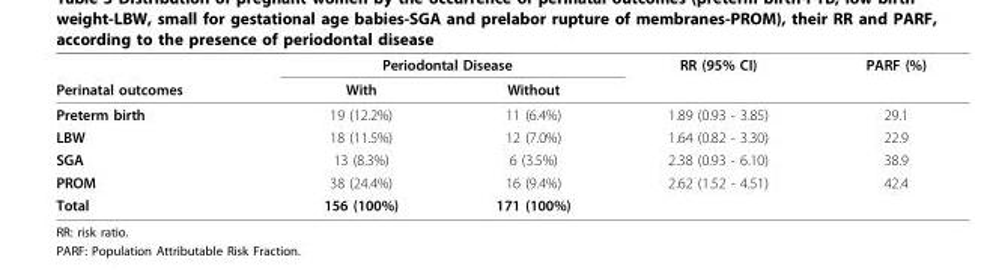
<table><thead><tr><td rowspan="2">Perinatal outcomes</td><td colspan="2">Periodontal Disease</td><td rowspan="2">RR (95% CI)</td><td rowspan="2">PARF (%)</td></tr><tr><td>With</td><td>Without</td></tr></thead><tbody><tr><td>Preterm birth</td><td>19 (12.2%)</td><td>11 (6.4%)</td><td>1.89 (0.93 - 3.85)</td><td>29.1</td></tr><tr><td>LBW</td><td>18 (11.5%)</td><td>12 (7.0%)</td><td>1.64 (0.82 - 3.30)</td><td>22.9</td></tr><tr><td>SGA</td><td>13 (8.3%)</td><td>6 (3.5%)</td><td>2.38 (0.93 - 6.10)</td><td>38.9</td></tr><tr><td>PROM</td><td>38 (24.4%)</td><td>16 (9.4%)</td><td>2.62 (1.52 - 4.51)</td><td>42.4</td></tr><tr><td>Total</td><td>156 (100%)</td><td>171 (100%)</td><td></td><td></td></tr></tbody></table>